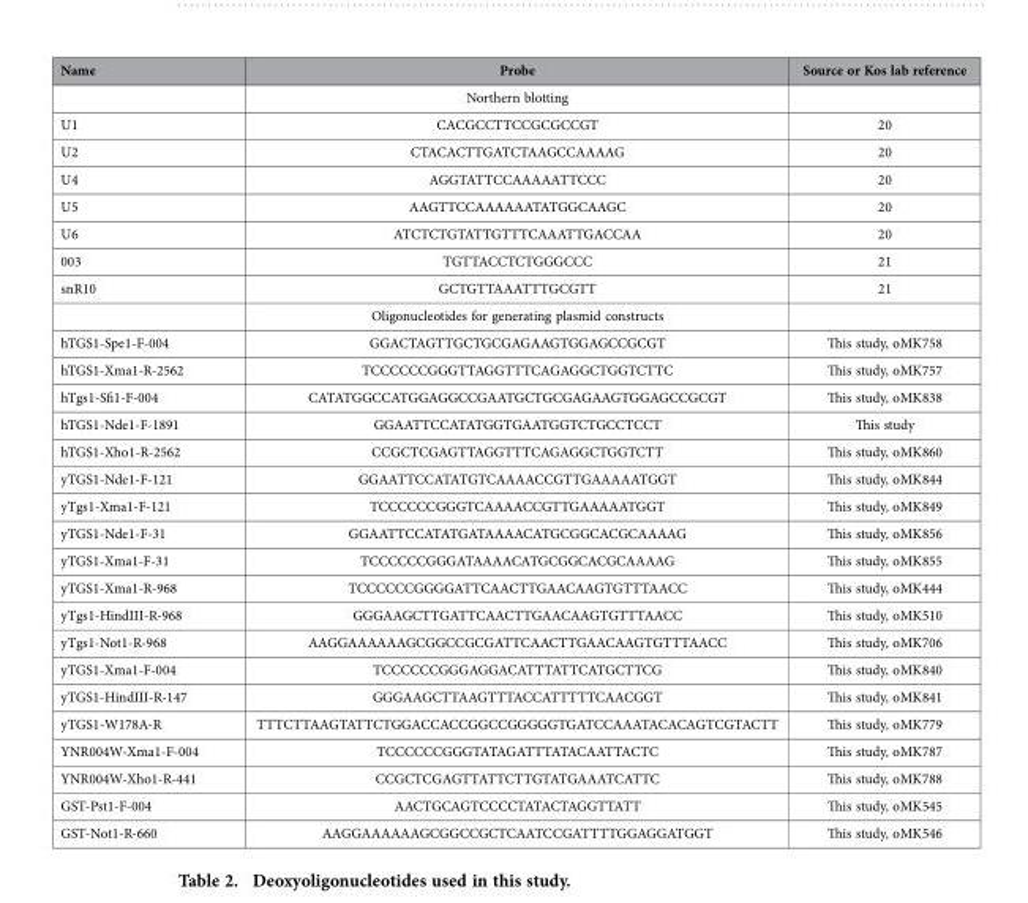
<table><thead><tr><td>Name</td><td>Probe</td><td>Source or Kos lab reference</td></tr></thead><tbody><tr><td></td><td>Northern blotting</td><td></td></tr><tr><td>U1</td><td>CACGCCTTCCGCGCCGT</td><td>20</td></tr><tr><td>U2</td><td>CTACACTTGATCTAAGCCAAAAG</td><td>20</td></tr><tr><td>U4</td><td>AGGTATTCCAAAAATTCCC</td><td>20</td></tr><tr><td>U5</td><td>AAGTTCCAAAAAATATGGCAAGC</td><td>20</td></tr><tr><td>U6</td><td>ATCTCTGTATTGTTTCAAATTGACCAA</td><td>20</td></tr><tr><td>003</td><td>TGTTACCTCTGGGCCC</td><td>21</td></tr><tr><td rowspan="2">snR10</td><td>GCTGTTAAATTTGCGTT</td><td>21</td></tr><tr><td>Oligonucleotides for generating plasmid constructs</td><td></td></tr><tr><td>hTGS1-Spe1-F-004</td><td>GGACTAGTTGCTGCGAGAAGTGGAGCCGCGT</td><td>This study, oMK758</td></tr><tr><td>hTGS1-Xma1-R-2562</td><td>TCCCCCCGGGTTAGGTTTCAGAGGCTGGTCTTC</td><td>This study, oMK757</td></tr><tr><td>hTgs1-Sfi1-F-004</td><td>CATATGGCCATGGAGGCCGAATGCTGCGAGAAGTGGAGCCGCGT</td><td>This study, oMK838</td></tr><tr><td>hTGS1-Nde1-F-1891</td><td>GGAATTCCATATGGTGAATGGTCTGCCTCCT</td><td>This study</td></tr><tr><td>hTGS1-Xho1-R-2562</td><td>CCGCTCGAGTTAGGTTTCAGAGGCTGGTCTT</td><td>This study, oMK860</td></tr><tr><td>yTGS1-Nde1-F-121</td><td>GGAATTCCATATGTCAAAACCGTTGAAAAATGGT</td><td>This study, oMK844</td></tr><tr><td>yTgs1-Xma1-F-121</td><td>TCCCCCCGGGTCAAAACCGTTGAAAAATGGT</td><td>This study, oMK849</td></tr><tr><td>yTGS1-Nde1-F-31</td><td>GGAATTCCATATGATAAAACATGCGGCACGCAAAAG</td><td>This study, oMK856</td></tr><tr><td>yTGS1-Xma1-F-31</td><td>TCCCCCCGGGATAAAACATGCGGCACGCAAAAG</td><td>This study, oMK855</td></tr><tr><td>yTGS1-Xma1-R-968</td><td>TCCCCCCGGGGATTCAACTTGAACAAGTGTTTAACC</td><td>This study, oMK444</td></tr><tr><td>yTgs1-HindIII-R-968</td><td>GGGAAGCTTGATTCAACTTGAACAAGTGTTTAACC</td><td>This study, oMK510</td></tr><tr><td>yTgs1-Not1-R-968</td><td>AAGGAAAAAAGCGGCCGCGATTCAACTTGAACAAGTGTTTAACC</td><td>This study, oMK706</td></tr><tr><td>yTGS1-Xma1-F-004</td><td>TCCCCCCGGGAGGACATTTATTCATGCTTCG</td><td>This study, oMK840</td></tr><tr><td>yTGS1-HindIII-R-147</td><td>GGGAAGCTTAAGTTTACCATTTTTCAACGGT</td><td>This study, oMK841</td></tr><tr><td>yTGS1-W178A-R</td><td>TTTCTTAAGTATTCTGGACCACCGGCCGGGGGTGATCCAAATACACAGTCGTACTT</td><td>This study, oMK779</td></tr><tr><td>YNR004W-Xma1-F-004</td><td>TCCCCCCGGGTATAGATTTATACAATTACTC</td><td>This study, oMK787</td></tr><tr><td>YNR004W-Xho1-R-441</td><td>CCGCTCGAGTTATTCTTGTATGAAATCATTC</td><td>This study, oMK788</td></tr><tr><td>GST-Pst1-F-004</td><td>AACTGCAGTCCCCTATACTAGGTTATT</td><td>This study, oMK545</td></tr><tr><td>GST-Not1-R-660</td><td>AAGGAAAAAAGCGGCCGCTCAATCCGATTTTGGAGGATGGT</td><td>This study, oMK546</td></tr></tbody></table>